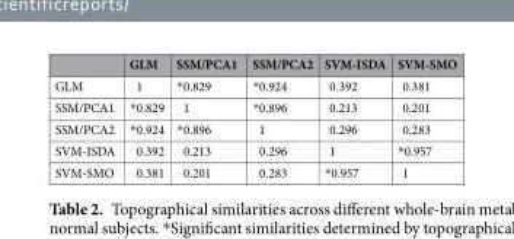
<table><thead><tr><td></td><td>GLM</td><td>SSM/PCA1</td><td>SSM/PCA2</td><td>SVM-ISDA</td><td>SVM-SMO</td></tr></thead><tbody><tr><td>GLM</td><td>1</td><td>*0.829</td><td>*0.924</td><td>0.392</td><td>0.381</td></tr><tr><td>SSM/PCA1</td><td>*0.829</td><td>1</td><td>*0.896</td><td>0.213</td><td>0.201</td></tr><tr><td>SSM/PCA2</td><td>*0.924</td><td>*0.896</td><td>1</td><td>0.296</td><td>0.283</td></tr><tr><td>SVM-ISDA</td><td>0.392</td><td>0.213</td><td>0.296</td><td>1</td><td>*0.957</td></tr><tr><td>SVM-SMO</td><td>0.381</td><td>0.201</td><td>0.283</td><td>*0.957</td><td>1</td></tr></tbody></table>